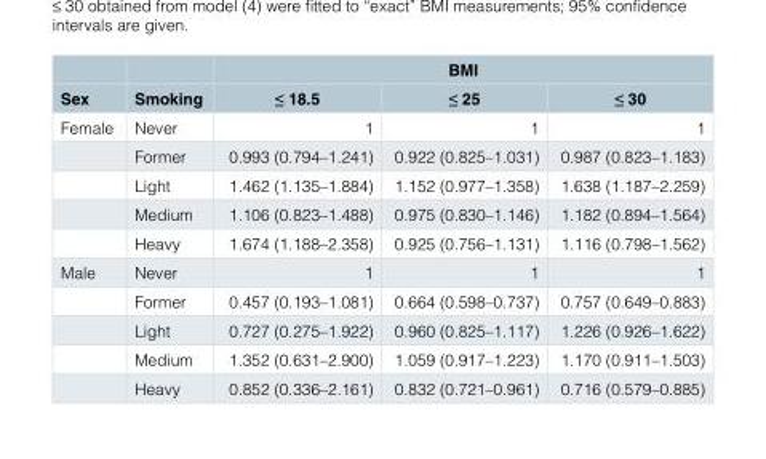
<table><thead><tr><td rowspan="2">Sex</td><td rowspan="2">Smoking</td><td colspan="3">BMI</td></tr><tr><td>≤ 18.5</td><td>≤ 25</td><td>≤ 30</td></tr></thead><tbody><tr><td rowspan="5">Female</td><td>Never</td><td>1</td><td>1</td><td>1</td></tr><tr><td>Former</td><td>0.993 (0.794–1.241)</td><td>0.922 (0.825–1.031)</td><td>0.987 (0.823–1.183)</td></tr><tr><td>Light</td><td>1.462 (1.135–1.884)</td><td>1.152 (0.977–1.358)</td><td>1.638 (1.187–2.259)</td></tr><tr><td>Medium</td><td>1.106 (0.823–1.488)</td><td>0.975 (0.830–1.146)</td><td>1.182 (0.894–1.564)</td></tr><tr><td>Heavy</td><td>1.674 (1.188–2.358)</td><td>0.925 (0.756–1.131)</td><td>1.116 (0.798–1.562)</td></tr><tr><td rowspan="5">Male</td><td>Never</td><td>1</td><td>1</td><td>1</td></tr><tr><td>Former</td><td>0.457 (0.193–1.081)</td><td>0.664 (0.598–0.737)</td><td>0.757 (0.649–0.883)</td></tr><tr><td>Light</td><td>0.727 (0.275–1.922)</td><td>0.960 (0.825–1.117)</td><td>1.226 (0.926–1.622)</td></tr><tr><td>Medium</td><td>1.352 (0.631–2.900)</td><td>1.059 (0.917–1.223)</td><td>1.170 (0.911–1.503)</td></tr><tr><td>Heavy</td><td>0.852 (0.336–2.161)</td><td>0.832 (0.721–0.961)</td><td>0.716 (0.579–0.885)</td></tr></tbody></table>